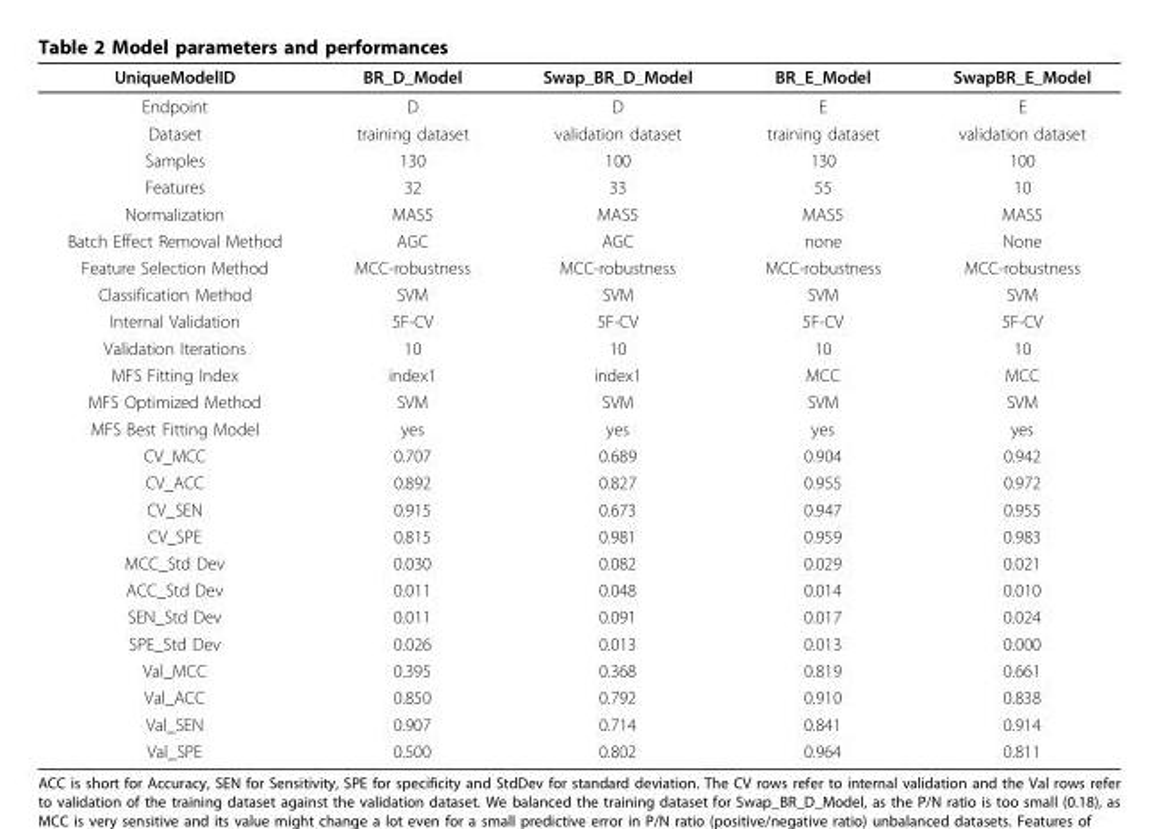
<table><thead><tr><td>UniqueModelID</td><td>BR_D_Model</td><td>Swap_BR_D_Model</td><td>BR_E_Model</td><td>SwapBR_E_Model</td></tr></thead><tbody><tr><td>Endpoint</td><td>D</td><td>D</td><td>E</td><td>E</td></tr><tr><td>Dataset</td><td>training dataset</td><td>validation dataset</td><td>training dataset</td><td>validation dataset</td></tr><tr><td>Samples</td><td>130</td><td>100</td><td>130</td><td>100</td></tr><tr><td>Features</td><td>32</td><td>33</td><td>55</td><td>10</td></tr><tr><td>Normalization</td><td>MAS5</td><td>MAS5</td><td>MAS5</td><td>MAS5</td></tr><tr><td>Batch Effect Removal Method</td><td>AGC</td><td>AGC</td><td>none</td><td>None</td></tr><tr><td>Feature Selection Method</td><td>MCC-robustness</td><td>MCC-robustness</td><td>MCC-robustness</td><td>MCC-robustness</td></tr><tr><td>Classification Method</td><td>SVM</td><td>SVM</td><td>SVM</td><td>SVM</td></tr><tr><td>Internal Validation</td><td>5F-CV</td><td>5F-CV</td><td>5F-CV</td><td>5F-CV</td></tr><tr><td>Validation Iterations</td><td>10</td><td>10</td><td>10</td><td>10</td></tr><tr><td>MFS Fitting Index</td><td>index1</td><td>index1</td><td>MCC</td><td>MCC</td></tr><tr><td>MFS Optimized Method</td><td>SVM</td><td>SVM</td><td>SVM</td><td>SVM</td></tr><tr><td>MFS Best Fitting Model</td><td>yes</td><td>yes</td><td>yes</td><td>yes</td></tr><tr><td>CV_MCC</td><td>0.707</td><td>0.689</td><td>0.904</td><td>0.942</td></tr><tr><td>CV_ACC</td><td>0.892</td><td>0.827</td><td>0.955</td><td>0.972</td></tr><tr><td>CV_SEN</td><td>0.915</td><td>0.673</td><td>0.947</td><td>0.955</td></tr><tr><td>CV_SPE</td><td>0.815</td><td>0.981</td><td>0.959</td><td>0.983</td></tr><tr><td>MCC_Std Dev</td><td>0.030</td><td>0.082</td><td>0.029</td><td>0.021</td></tr><tr><td>ACC_Std Dev</td><td>0.011</td><td>0.048</td><td>0.014</td><td>0.010</td></tr><tr><td>SEN_Std Dev</td><td>0.011</td><td>0.091</td><td>0.017</td><td>0.024</td></tr><tr><td>SPE_Std Dev</td><td>0.026</td><td>0.013</td><td>0.013</td><td>0.000</td></tr><tr><td>Val_MCC</td><td>0.395</td><td>0.368</td><td>0.819</td><td>0.661</td></tr><tr><td>Val_ACC</td><td>0.850</td><td>0.792</td><td>0.910</td><td>0.838</td></tr><tr><td>Val_SEN</td><td>0.907</td><td>0.714</td><td>0.841</td><td>0.914</td></tr><tr><td>Val_SPE</td><td>0.500</td><td>0.802</td><td>0.964</td><td>0.811</td></tr></tbody></table>